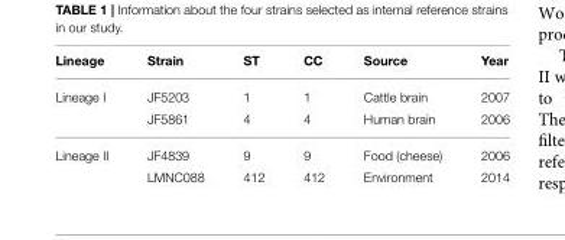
<table><thead><tr><td>Lineage</td><td>Strain</td><td>ST</td><td>CC</td><td>Source</td><td>Year</td></tr></thead><tbody><tr><td rowspan="2">Lineage I</td><td>JF5203</td><td>1</td><td>1</td><td>Cattle brain</td><td>2007</td></tr><tr><td>JF5861</td><td>4</td><td>4</td><td>Human brain</td><td>2006</td></tr><tr><td rowspan="2">Lineage II</td><td>JF4839</td><td>9</td><td>9</td><td>Food (cheese)</td><td>2006</td></tr><tr><td>LMNC088</td><td>412</td><td>412</td><td>Environment</td><td>2014</td></tr></tbody></table>